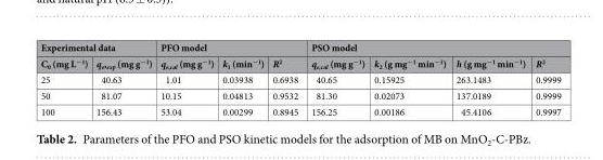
<table><thead><tr><td colspan="2">Experimental data</td><td colspan="3">PFO model</td><td colspan="4">PSO model</td></tr><tr><td>C<sub>0</sub> (mg L<sup>−1</sup>)</td><td>q<sub>e</sub>,<sub>exp</sub> (mg g<sup>−1</sup>)</td><td>q<sub>e,cal</sub> (mg g<sup>−1</sup>)</td><td>k<sub>1</sub> (min<sup>−1</sup>)</td><td>R<sup>2</sup></td><td>q<sub>e,cal</sub> (mg g<sup>−1</sup>)</td><td>k<sub>2</sub> (g mg<sup>−1</sup> min<sup>−1</sup>)</td><td>h (g mg<sup>−1</sup> min<sup>−1</sup>)</td><td>R<sup>2</sup></td></tr></thead><tbody><tr><td>25</td><td>40.63</td><td>1.01</td><td>0.03938</td><td>0.6938</td><td>40.65</td><td>0.15925</td><td>263.1483</td><td>0.9999</td></tr><tr><td>50</td><td>81.07</td><td>10.15</td><td>0.04813</td><td>0.9532</td><td>81.30</td><td>0.02073</td><td>137.0189</td><td>0.9999</td></tr><tr><td>100</td><td>156.43</td><td>53.04</td><td>0.00299</td><td>0.8945</td><td>156.25</td><td>0.00186</td><td>45.4106</td><td>0.9997</td></tr></tbody></table>